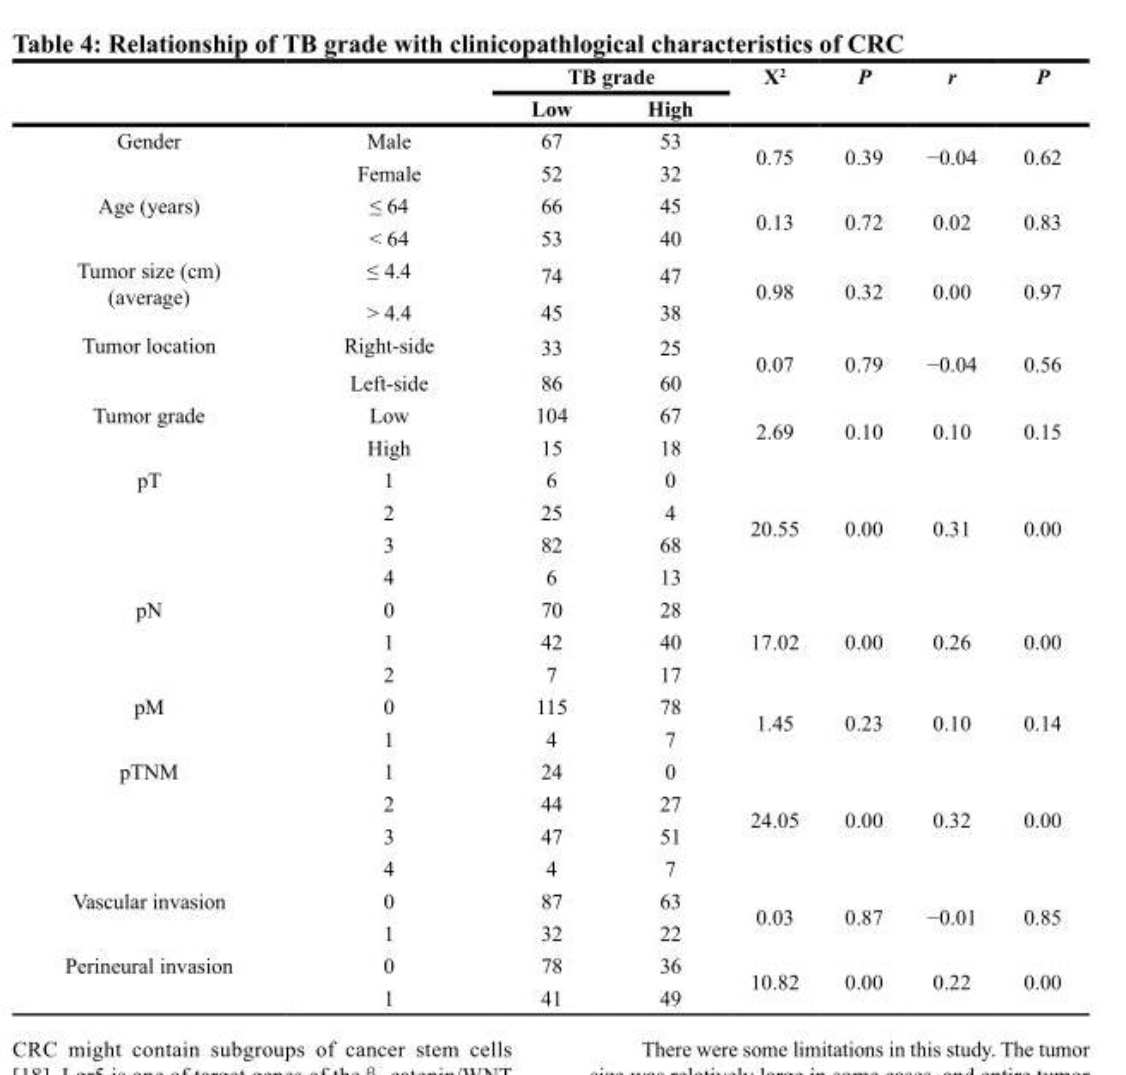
<table><thead><tr><td rowspan="2"></td><td rowspan="2"></td><td colspan="2">TB grade</td><td rowspan="2">X<sup>2</sup></td><td rowspan="2">P</td><td rowspan="2">r</td><td rowspan="2">P</td></tr><tr><td>Low</td><td>High</td></tr></thead><tbody><tr><td rowspan="2">Gender</td><td>Male</td><td>67</td><td>53</td><td rowspan="2">0.75</td><td rowspan="2">0.39</td><td rowspan="2">−0.04</td><td rowspan="2">0.62</td></tr><tr><td>Female</td><td>52</td><td>32</td></tr><tr><td rowspan="2">Age (years)</td><td>≤ 64</td><td>66</td><td>45</td><td rowspan="2">0.13</td><td rowspan="2">0.72</td><td rowspan="2">0.02</td><td rowspan="2">0.83</td></tr><tr><td>&lt; 64</td><td>53</td><td>40</td></tr><tr><td rowspan="2">Tumor size (cm) (average)</td><td>≤ 4.4</td><td>74</td><td>47</td><td rowspan="2">0.98</td><td rowspan="2">0.32</td><td rowspan="2">0.00</td><td rowspan="2">0.97</td></tr><tr><td>&gt; 4.4</td><td>45</td><td>38</td></tr><tr><td rowspan="2">Tumor location</td><td>Right-side</td><td>33</td><td>25</td><td rowspan="2">0.07</td><td rowspan="2">0.79</td><td rowspan="2">−0.04</td><td rowspan="2">0.56</td></tr><tr><td>Left-side</td><td>86</td><td>60</td></tr><tr><td rowspan="2">Tumor grade</td><td>Low</td><td>104</td><td>67</td><td rowspan="2">2.69</td><td rowspan="2">0.10</td><td rowspan="2">0.10</td><td rowspan="2">0.15</td></tr><tr><td>High</td><td>15</td><td>18</td></tr><tr><td rowspan="4">pT</td><td>1</td><td>6</td><td>0</td><td rowspan="4">20.55</td><td rowspan="4">0.00</td><td rowspan="4">0.31</td><td rowspan="4">0.00</td></tr><tr><td>2</td><td>25</td><td>4</td></tr><tr><td>3</td><td>82</td><td>68</td></tr><tr><td>4</td><td>6</td><td>13</td></tr><tr><td rowspan="3">pN</td><td>0</td><td>70</td><td>28</td><td rowspan="3">17.02</td><td rowspan="3">0.00</td><td rowspan="3">0.26</td><td rowspan="3">0.00</td></tr><tr><td>1</td><td>42</td><td>40</td></tr><tr><td>2</td><td>7</td><td>17</td></tr><tr><td rowspan="2">pM</td><td>0</td><td>115</td><td>78</td><td rowspan="2">1.45</td><td rowspan="2">0.23</td><td rowspan="2">0.10</td><td rowspan="2">0.14</td></tr><tr><td>1</td><td>4</td><td>7</td></tr><tr><td rowspan="4">pTNM</td><td>1</td><td>24</td><td>0</td><td rowspan="4">24.05</td><td rowspan="4">0.00</td><td rowspan="4">0.32</td><td rowspan="4">0.00</td></tr><tr><td>2</td><td>44</td><td>27</td></tr><tr><td>3</td><td>47</td><td>51</td></tr><tr><td>4</td><td>4</td><td>7</td></tr><tr><td rowspan="2">Vascular invasion</td><td>0</td><td>87</td><td>63</td><td rowspan="2">0.03</td><td rowspan="2">0.87</td><td rowspan="2">−0.01</td><td rowspan="2">0.85</td></tr><tr><td>1</td><td>32</td><td>22</td></tr><tr><td rowspan="2">Perineural invasion</td><td>0</td><td>78</td><td>36</td><td rowspan="2">10.82</td><td rowspan="2">0.00</td><td rowspan="2">0.22</td><td rowspan="2">0.00</td></tr><tr><td>1</td><td>41</td><td>49</td></tr></tbody></table>